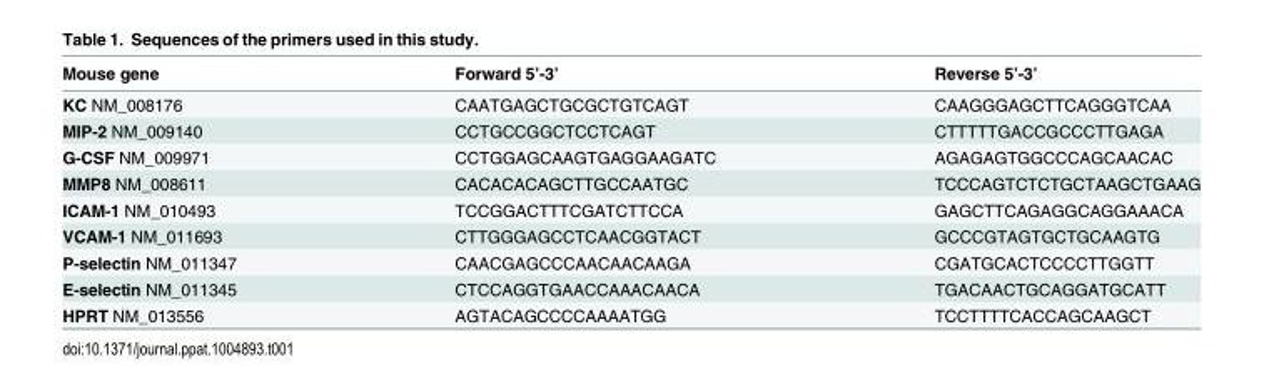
<table><thead><tr><td>Mouse gene</td><td>Forward 5’-3’</td><td>Reverse 5’-3’</td></tr></thead><tbody><tr><td>KC NM_008176</td><td>CAATGAGCTGCGCTGTCAGT</td><td>CAAGGGAGCTTCAGGGTCAA</td></tr><tr><td>MIP-2 NM_009140</td><td>CCTGCCGGCTCCTCAGT</td><td>CTTTTTGACCGCCCTTGAGA</td></tr><tr><td>G-CSF NM_009971</td><td>CCTGGAGCAAGTGAGGAAGATC</td><td>AGAGAGTGGCCCAGCAACAC</td></tr><tr><td>MMP8 NM_008611</td><td>CACACACAGCTTGCCAATGC</td><td>TCCCAGTCTCTGCTAAGCTGAAG</td></tr><tr><td>ICAM-1 NM_010493</td><td>TCCGGACTTTCGATCTTCCA</td><td>GAGCTTCAGAGGCAGGAAACA</td></tr><tr><td>VCAM-1 NM_011693</td><td>CTTGGGAGCCTCAACGGTACT</td><td>GCCCGTAGTGCTGCAAGTG</td></tr><tr><td>P-selectin NM_011347</td><td>CAACGAGCCCAACAACAAGA</td><td>CGATGCACTCCCCTTGGTT</td></tr><tr><td>E-selectin NM_011345</td><td>CTCCAGGTGAACCAAACAACA</td><td>TGACAACTGCAGGATGCATT</td></tr><tr><td>HPRT NM_013556</td><td>AGTACAGCCCCAAAATGG</td><td>TCCTTTTCACCAGCAAGCT</td></tr></tbody></table>